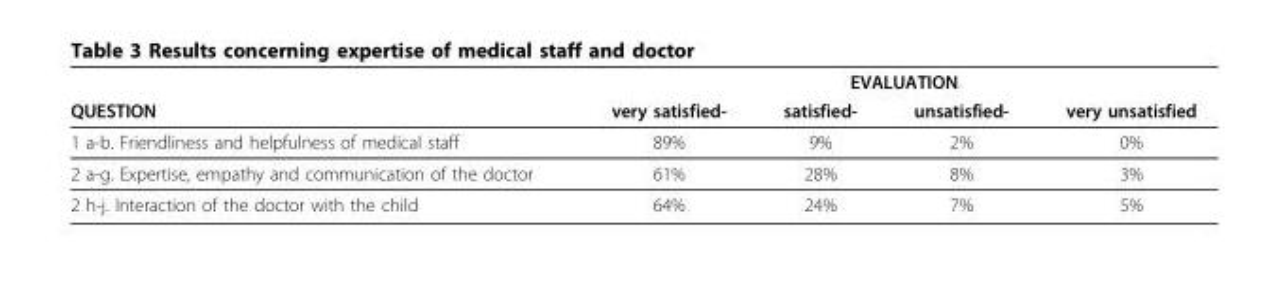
<table><thead><tr><td rowspan="2">QUESTION</td><td colspan="4">EVALUATION</td></tr><tr><td>very satisfied-</td><td>satisfied-</td><td>unsatisfied-</td><td>very unsatisfied</td></tr></thead><tbody><tr><td>1 a-b. Friendliness and helpfulness of medical staff</td><td>89%</td><td>9%</td><td>2%</td><td>0%</td></tr><tr><td>2 a-g. Expertise, empathy and communication of the doctor</td><td>61%</td><td>28%</td><td>8%</td><td>3%</td></tr><tr><td>2 h-j. Interaction of the doctor with the child</td><td>64%</td><td>24%</td><td>7%</td><td>5%</td></tr></tbody></table>